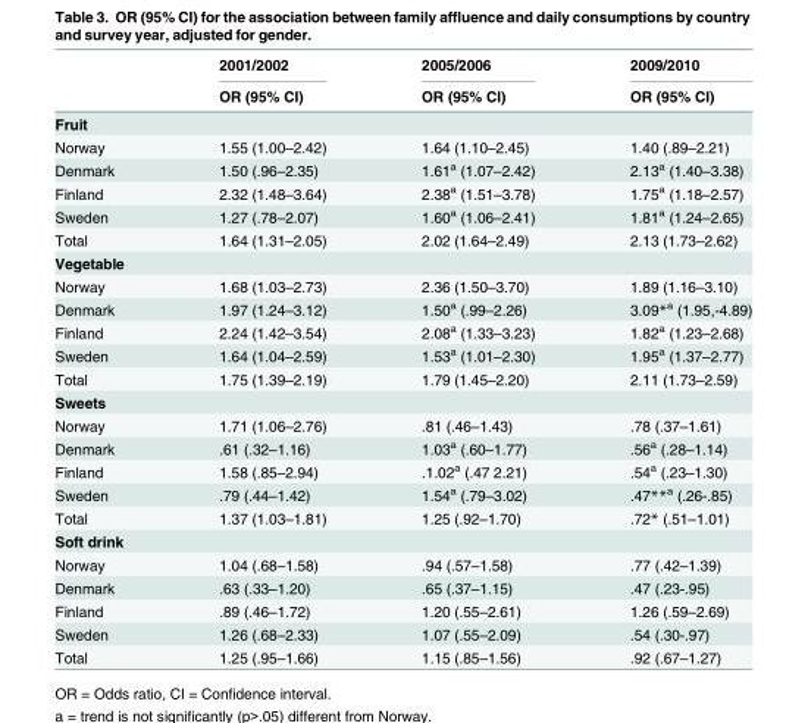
<table><thead><tr><td rowspan="2"></td><td rowspan="2">2001/2002 OR (95% CI)</td><td rowspan="2">2005/2006 OR (95% CI)</td><td rowspan="2">2009/2010 OR (95% CI)</td></tr><tr></tr></thead><tbody><tr><td colspan="4">Fruit</td></tr><tr><td>Norway</td><td>1.55 (1.00–2.42)</td><td>1.64 (1.10–2.45)</td><td>1.40 (.89–2.21)</td></tr><tr><td>Denmark</td><td>1.50 (.96–2.35)</td><td>1.61<sup>a</sup> (1.07–2.42)</td><td>2.13<sup>a</sup> (1.40–3.38)</td></tr><tr><td>Finland</td><td>2.32 (1.48–3.64)</td><td>2.38<sup>a</sup> (1.51–3.78)</td><td>1.75<sup>a</sup> (1.18–2.57)</td></tr><tr><td>Sweden</td><td>1.27 (.78–2.07)</td><td>1.60<sup>a</sup> (1.06–2.41)</td><td>1.81<sup>a</sup> (1.24–2.65)</td></tr><tr><td>Total</td><td>1.64 (1.31–2.05)</td><td>2.02 (1.64–2.49)</td><td>2.13 (1.73–2.62)</td></tr><tr><td colspan="4">Vegetable</td></tr><tr><td>Norway</td><td>1.68 (1.03–2.73)</td><td>2.36 (1.50–3.70)</td><td>1.89 (1.16–3.10)</td></tr><tr><td>Denmark</td><td>1.97 (1.24–3.12)</td><td>1.50<sup>a</sup> (.99–2.26)</td><td>3.09*<sup>a</sup> (1.95,-4.89)</td></tr><tr><td>Finland</td><td>2.24 (1.42–3.54)</td><td>2.08<sup>a</sup> (1.33–3.23)</td><td>1.82<sup>a</sup> (1.23–2.68)</td></tr><tr><td>Sweden</td><td>1.64 (1.04–2.59)</td><td>1.53<sup>a</sup> (1.01–2.30)</td><td>1.95<sup>a</sup> (1.37–2.77)</td></tr><tr><td>Total</td><td>1.75 (1.39–2.19)</td><td>1.79 (1.45–2.20)</td><td>2.11 (1.73–2.59)</td></tr><tr><td colspan="4">Sweets</td></tr><tr><td>Norway</td><td>1.71 (1.06–2.76)</td><td>.81 (.46–1.43)</td><td>.78 (.37–1.61)</td></tr><tr><td>Denmark</td><td>.61 (.32–1.16)</td><td>1.03<sup>a</sup> (.60–1.77)</td><td>.56<sup>a</sup> (.28–1.14)</td></tr><tr><td>Finland</td><td>1.58 (.85–2.94)</td><td>.1.02<sup>a</sup> (.47 2.21)</td><td>.54<sup>a</sup> (.23–1.30)</td></tr><tr><td>Sweden</td><td>.79 (.44–1.42)</td><td>1.54<sup>a</sup> (.79–3.02)</td><td>.47**<sup>a</sup> (.26-.85)</td></tr><tr><td>Total</td><td>1.37 (1.03–1.81)</td><td>1.25 (.92–1.70)</td><td>.72* (.51–1.01)</td></tr><tr><td colspan="4">Soft drink</td></tr><tr><td>Norway</td><td>1.04 (.68–1.58)</td><td>.94 (.57–1.58)</td><td>.77 (.42–1.39)</td></tr><tr><td>Denmark</td><td>.63 (.33–1.20)</td><td>.65 (.37–1.15)</td><td>.47 (.23-.95)</td></tr><tr><td>Finland</td><td>.89 (.46–1.72)</td><td>1.20 (.55–2.61)</td><td>1.26 (.59–2.69)</td></tr><tr><td>Sweden</td><td>1.26 (.68–2.33)</td><td>1.07 (.55–2.09)</td><td>.54 (.30-.97)</td></tr><tr><td>Total</td><td>1.25 (.95–1.66)</td><td>1.15 (.85–1.56)</td><td>.92 (.67–1.27)</td></tr></tbody></table>